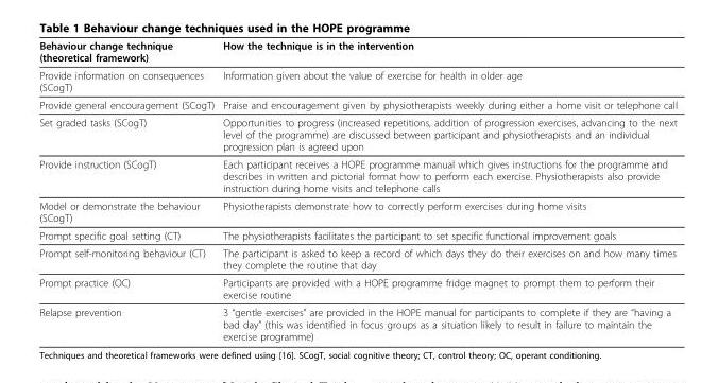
<table><thead><tr><td>Behaviour change technique (theoretical framework)</td><td>How the technique is in the intervention</td></tr></thead><tbody><tr><td>Provide information on consequences (SCogT)</td><td>Information given about the value of exercise for health in older age</td></tr><tr><td>Provide general encouragement (SCogT)</td><td>Praise and encouragement given by physiotherapists weekly during either a home visit or telephone call</td></tr><tr><td>Set graded tasks (SCogT)</td><td>Opportunities to progress (increased repetitions, addition of progression exercises, advancing to the next level of the programme) are discussed between participant and physiotherapists and an individual progression plan is agreed upon</td></tr><tr><td>Provide instruction (SCogT)</td><td>Each participant receives a HOPE programme manual which gives instructions for the programme and describes in written and pictorial format how to perform each exercise. Physiotherapists also provide instruction during home visits and telephone calls</td></tr><tr><td>Model or demonstrate the behaviour (SCogT)</td><td>Physiotherapists demonstrate how to correctly perform exercises during home visits</td></tr><tr><td>Prompt specific goal setting (CT)</td><td>The physiotherapists facilitates the participant to set specific functional improvement goals</td></tr><tr><td>Prompt self-monitoring behaviour (CT)</td><td>The participant is asked to keep a record of which days they do their exercises on and how many times they complete the routine that day</td></tr><tr><td>Prompt practice (OC)</td><td>Participants are provided with a HOPE programme fridge magnet to prompt them to perform their exercise routine</td></tr><tr><td>Relapse prevention</td><td>3 “gentle exercises” are provided in the HOPE manual for participants to complete if they are “having a bad day” (this was identified in focus groups as a situation likely to result in failure to maintain the exercise programme)</td></tr></tbody></table>